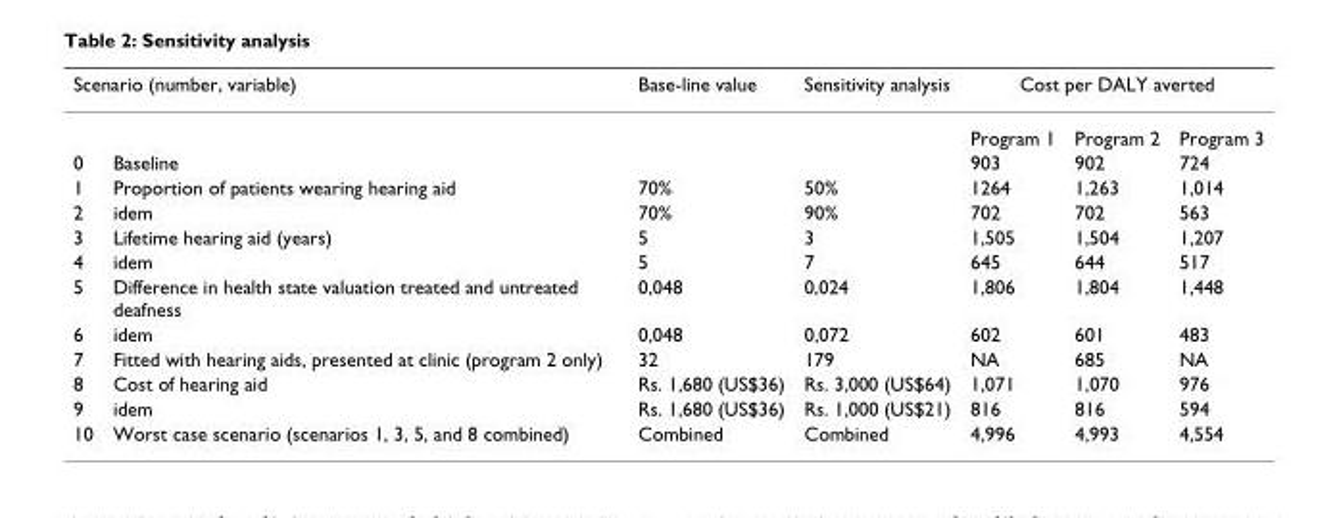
<table><thead><tr><td colspan="2">Scenario (number, variable)</td><td rowspan="2">Base-line value</td><td rowspan="2">Sensitivity analysis</td><td colspan="3">Cost per DALY averted</td></tr><tr><td></td><td></td><td>Program 1</td><td>Program 2</td><td>Program 3</td></tr></thead><tbody><tr><td>0</td><td>Baseline</td><td></td><td></td><td>903</td><td>902</td><td>724</td></tr><tr><td>1</td><td>Proportion of patients wearing hearing aid</td><td>70%</td><td>50%</td><td>1264</td><td>1,263</td><td>1,014</td></tr><tr><td>2</td><td>idem</td><td>70%</td><td>90%</td><td>702</td><td>702</td><td>563</td></tr><tr><td>3</td><td>Lifetime hearing aid (years)</td><td>5</td><td>3</td><td>1,505</td><td>1,504</td><td>1,207</td></tr><tr><td>4</td><td>idem</td><td>5</td><td>7</td><td>645</td><td>644</td><td>517</td></tr><tr><td>5</td><td>Difference in health state valuation treated and untreated deafness</td><td>0,048</td><td>0,024</td><td>1,806</td><td>1,804</td><td>1,448</td></tr><tr><td>6</td><td>idem</td><td>0,048</td><td>0,072</td><td>602</td><td>601</td><td>483</td></tr><tr><td>7</td><td>Fitted with hearing aids, presented at clinic (program 2 only)</td><td>32</td><td>179</td><td>NA</td><td>685</td><td>NA</td></tr><tr><td>8</td><td>Cost of hearing aid</td><td>Rs. 1,680 (US$36)</td><td>Rs. 3,000 (US$64)</td><td>1,071</td><td>1,070</td><td>976</td></tr><tr><td>9</td><td>idem</td><td>Rs. 1,680 (US$36)</td><td>Rs. 1,000 (US$21)</td><td>816</td><td>816</td><td>594</td></tr><tr><td>10</td><td>Worst case scenario (scenarios 1, 3, 5, and 8 combined)</td><td>Combined</td><td>Combined</td><td>4,996</td><td>4,993</td><td>4,554</td></tr></tbody></table>